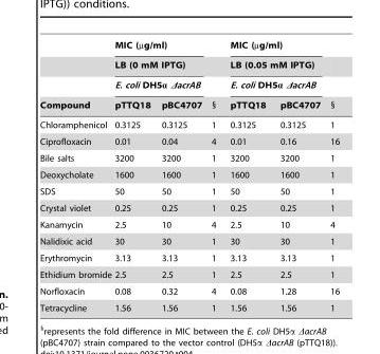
<table><thead><tr><td rowspan="4">Compound</td><td rowspan="3" colspan="2">MIC (µg/ml) LB (0 mM IPTG) E. coli DH5α ΔacrAB</td><td rowspan="4">§</td><td rowspan="3" colspan="2">MIC (µg/ml) LB (0.05 mM IPTG) E. coli DH5α ΔacrAB</td><td rowspan="4">§</td></tr><tr></tr><tr></tr><tr><td>pTTQ18</td><td>pBC4707</td><td>pTTQ18</td><td>pBC4707</td></tr></thead><tbody><tr><td>Chloramphenicol</td><td>0.3125</td><td>0.3125</td><td>1</td><td>0.3125</td><td>0.3125</td><td>1</td></tr><tr><td>Ciprofloxacin</td><td>0.01</td><td>0.04</td><td>4</td><td>0.01</td><td>0.16</td><td>16</td></tr><tr><td>Bile salts</td><td>3200</td><td>3200</td><td>1</td><td>3200</td><td>3200</td><td>1</td></tr><tr><td>Deoxycholate</td><td>1600</td><td>1600</td><td>1</td><td>1600</td><td>1600</td><td>1</td></tr><tr><td>SDS</td><td>50</td><td>50</td><td>1</td><td>50</td><td>50</td><td>1</td></tr><tr><td>Crystal violet</td><td>0.25</td><td>0.25</td><td>1</td><td>0.25</td><td>0.25</td><td>1</td></tr><tr><td>Kanamycin</td><td>2.5</td><td>10</td><td>4</td><td>2.5</td><td>10</td><td>4</td></tr><tr><td>Nalidixic acid</td><td>30</td><td>30</td><td>1</td><td>30</td><td>30</td><td>1</td></tr><tr><td>Erythromycin</td><td>3.13</td><td>3.13</td><td>1</td><td>3.13</td><td>3.13</td><td>1</td></tr><tr><td>Ethidium bromide</td><td>2.5</td><td>2.5</td><td>1</td><td>2.5</td><td>2.5</td><td>1</td></tr><tr><td>Norfloxacin</td><td>0.08</td><td>0.32</td><td>4</td><td>0.08</td><td>1.28</td><td>16</td></tr><tr><td>Tetracycline</td><td>1.56</td><td>1.56</td><td>1</td><td>1.56</td><td>1.56</td><td>1</td></tr></tbody></table>